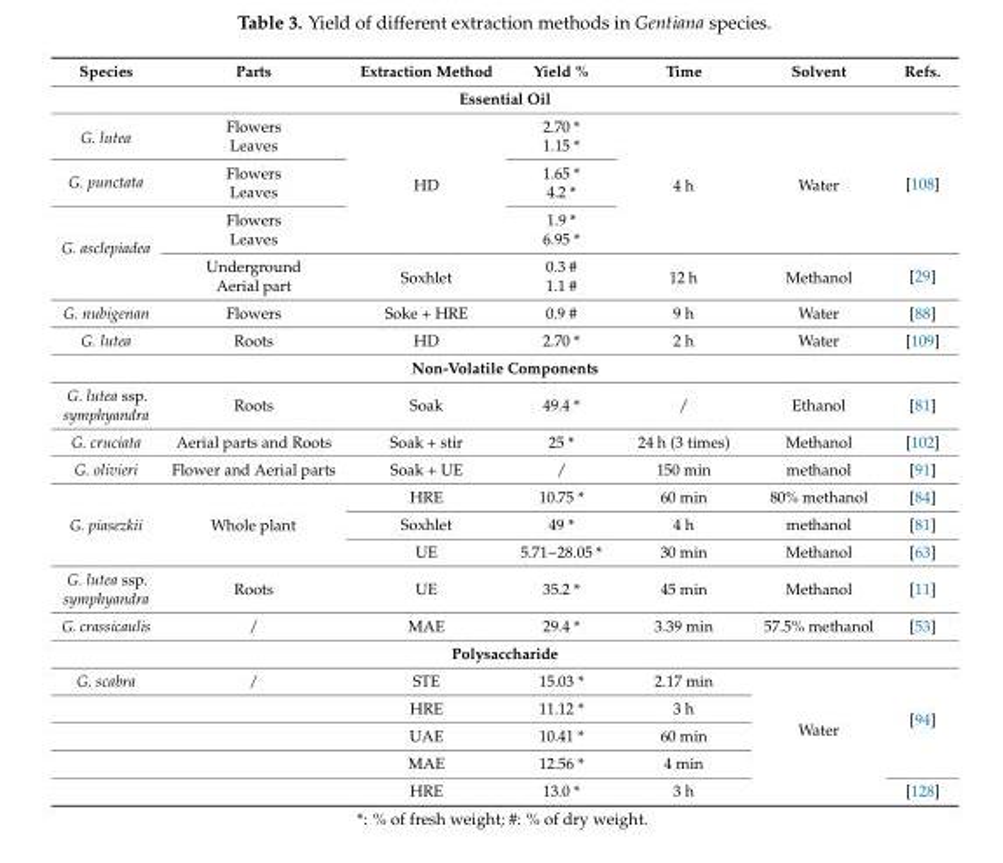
<table><thead><tr><td>Species</td><td>Parts</td><td>Extraction Method</td><td>Yield %</td><td>Time</td><td>Solvent</td><td>Refs.</td></tr></thead><tbody><tr><td colspan="7">Essential Oil</td></tr><tr><td rowspan="2">G. lutea</td><td>Flowers</td><td rowspan="6">HD</td><td>2.70 *</td><td rowspan="6">4 h</td><td rowspan="6">Water</td><td rowspan="6">[108]</td></tr><tr><td>Leaves</td><td>1.15 *</td></tr><tr><td rowspan="2">G. punctata</td><td>Flowers</td><td>1.65 *</td></tr><tr><td>Leaves</td><td>4.2 *</td></tr><tr><td rowspan="4">G. asclepiadea</td><td>Flowers</td><td>1.9 *</td></tr><tr><td>Leaves</td><td>6.95 *</td></tr><tr><td>Underground</td><td rowspan="2">Soxhlet</td><td>0.3 #</td><td rowspan="2">12 h</td><td rowspan="2">Methanol</td><td rowspan="2">[29]</td></tr><tr><td>Aerial part</td><td>1.1 #</td></tr><tr><td>G. nubigenan</td><td>Flowers</td><td>Soke + HRE</td><td>0.9 #</td><td>9 h</td><td>Water</td><td>[88]</td></tr><tr><td>G. lutea</td><td>Roots</td><td>HD</td><td>2.70 *</td><td>2 h</td><td>Water</td><td>[109]</td></tr><tr><td colspan="7">Non-Volatile Components</td></tr><tr><td>G. lutea ssp. symphyandra</td><td>Roots</td><td>Soak</td><td>49.4 *</td><td>/</td><td>Ethanol</td><td>[81]</td></tr><tr><td>G. cruciata</td><td>Aerial parts and Roots</td><td>Soak + stir</td><td>25 *</td><td>24 h (3 times)</td><td>Methanol</td><td>[102]</td></tr><tr><td>G. olivieri</td><td>Flower and Aerial parts</td><td>Soak + UE</td><td>/</td><td>150 min</td><td>methanol</td><td>[91]</td></tr><tr><td rowspan="3">G. piasezkii</td><td rowspan="3">Whole plant</td><td>HRE</td><td>10.75 *</td><td>60 min</td><td>80% methanol</td><td>[84]</td></tr><tr><td>Soxhlet</td><td>49 *</td><td>4 h</td><td>methanol</td><td>[81]</td></tr><tr><td>UE</td><td>5.71~28.05 *</td><td>30 min</td><td>Methanol</td><td>[63]</td></tr><tr><td>G. lutea ssp. symphyandra</td><td>Roots</td><td>UE</td><td>35.2 *</td><td>45 min</td><td>Methanol</td><td>[11]</td></tr><tr><td>G. crassicaulis</td><td>/</td><td>MAE</td><td>29.4 *</td><td>3.39 min</td><td>57.5% methanol</td><td>[53]</td></tr><tr><td colspan="7">Polysaccharide</td></tr><tr><td rowspan="5">G. scabra</td><td>/</td><td>STE</td><td>15.03 *</td><td>2.17 min</td><td rowspan="5">Water</td><td rowspan="4">[94]</td></tr><tr><td></td><td>HRE</td><td>11.12 *</td><td>3 h</td></tr><tr><td></td><td>UAE</td><td>10.41 *</td><td>60 min</td></tr><tr><td></td><td>MAE</td><td>12.56 *</td><td>4 min</td></tr><tr><td></td><td>HRE</td><td>13.0 *</td><td>3 h</td><td>[128]</td></tr></tbody></table>